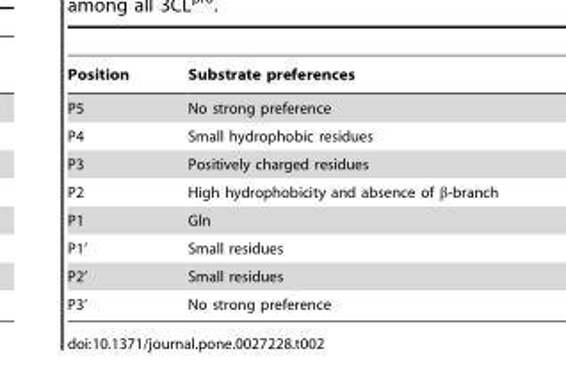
<table><thead><tr><td>Position</td><td>Substrate preferences</td></tr></thead><tbody><tr><td>P5</td><td>No strong preference</td></tr><tr><td>P4</td><td>Small hydrophobic residues</td></tr><tr><td>P3</td><td>Positively charged residues</td></tr><tr><td>P2</td><td>High hydrophobicity and absence of β-branch</td></tr><tr><td>P1</td><td>Gln</td></tr><tr><td>P1’</td><td>Small residues</td></tr><tr><td>P2’</td><td>Small residues</td></tr><tr><td>P3’</td><td>No strong preference</td></tr></tbody></table>